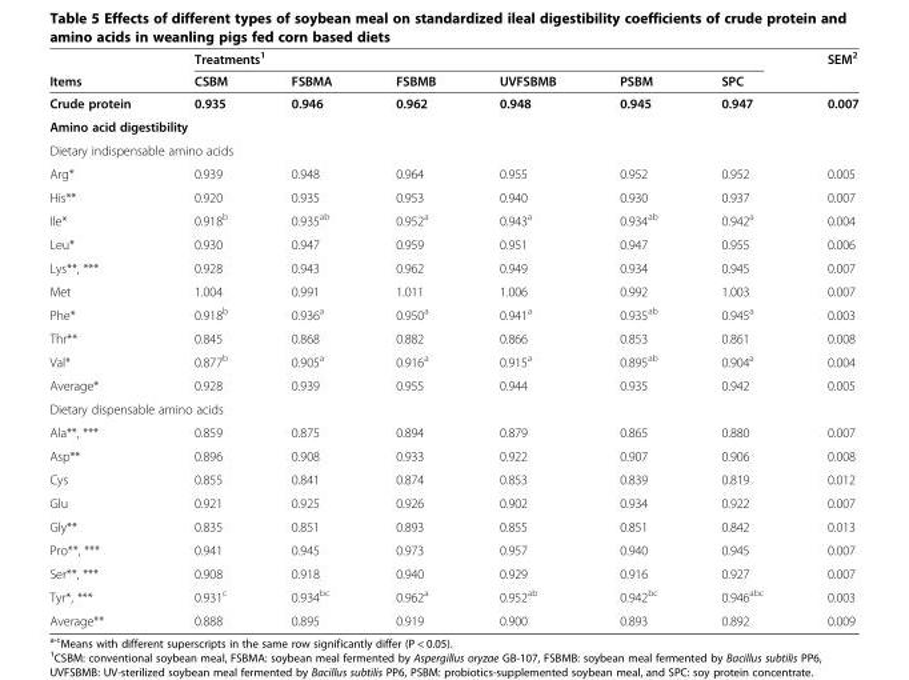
<table><thead><tr><td rowspan="2">Items</td><td colspan="6">Treatments<sup>1</sup></td><td rowspan="2">SEM<sup>2</sup></td></tr><tr><td>CSBM</td><td>FSBMA</td><td>FSBMB</td><td>UVFSBMB</td><td>PSBM</td><td>SPC</td></tr></thead><tbody><tr><td>Crude protein</td><td>0.935</td><td>0.946</td><td>0.962</td><td>0.948</td><td>0.945</td><td>0.947</td><td>0.007</td></tr><tr><td colspan="8">Amino acid digestibility</td></tr><tr><td colspan="8">Dietary indispensable amino acids</td></tr><tr><td>Arg*</td><td>0.939</td><td>0.948</td><td>0.964</td><td>0.955</td><td>0.952</td><td>0.952</td><td>0.005</td></tr><tr><td>His**</td><td>0.920</td><td>0.935</td><td>0.953</td><td>0.940</td><td>0.930</td><td>0.937</td><td>0.007</td></tr><tr><td>Ile*</td><td>0.918<sup>b</sup></td><td>0.935<sup>ab</sup></td><td>0.952<sup>a</sup></td><td>0.943<sup>a</sup></td><td>0.934<sup>ab</sup></td><td>0.942<sup>a</sup></td><td>0.004</td></tr><tr><td>Leu*</td><td>0.930</td><td>0.947</td><td>0.959</td><td>0.951</td><td>0.947</td><td>0.955</td><td>0.006</td></tr><tr><td>Lys**, ***</td><td>0.928</td><td>0.943</td><td>0.962</td><td>0.949</td><td>0.934</td><td>0.945</td><td>0.007</td></tr><tr><td>Met</td><td>1.004</td><td>0.991</td><td>1.011</td><td>1.006</td><td>0.992</td><td>1.003</td><td>0.007</td></tr><tr><td>Phe*</td><td>0.918<sup>b</sup></td><td>0.936<sup>a</sup></td><td>0.950<sup>a</sup></td><td>0.941<sup>a</sup></td><td>0.935<sup>ab</sup></td><td>0.945<sup>a</sup></td><td>0.003</td></tr><tr><td>Thr**</td><td>0.845</td><td>0.868</td><td>0.882</td><td>0.866</td><td>0.853</td><td>0.861</td><td>0.008</td></tr><tr><td>Val*</td><td>0.877<sup>b</sup></td><td>0.905<sup>a</sup></td><td>0.916<sup>a</sup></td><td>0.915<sup>a</sup></td><td>0.895<sup>ab</sup></td><td>0.904<sup>a</sup></td><td>0.004</td></tr><tr><td>Average*</td><td>0.928</td><td>0.939</td><td>0.955</td><td>0.944</td><td>0.935</td><td>0.942</td><td>0.005</td></tr><tr><td colspan="8">Dietary dispensable amino acids</td></tr><tr><td>Ala**, ***</td><td>0.859</td><td>0.875</td><td>0.894</td><td>0.879</td><td>0.865</td><td>0.880</td><td>0.007</td></tr><tr><td>Asp**</td><td>0.896</td><td>0.908</td><td>0.933</td><td>0.922</td><td>0.907</td><td>0.906</td><td>0.008</td></tr><tr><td>Cys</td><td>0.855</td><td>0.841</td><td>0.874</td><td>0.853</td><td>0.839</td><td>0.819</td><td>0.012</td></tr><tr><td>Glu</td><td>0.921</td><td>0.925</td><td>0.926</td><td>0.902</td><td>0.934</td><td>0.922</td><td>0.007</td></tr><tr><td>Gly**</td><td>0.835</td><td>0.851</td><td>0.893</td><td>0.855</td><td>0.851</td><td>0.842</td><td>0.013</td></tr><tr><td>Pro**, ***</td><td>0.941</td><td>0.945</td><td>0.973</td><td>0.957</td><td>0.940</td><td>0.945</td><td>0.007</td></tr><tr><td>Ser**, ***</td><td>0.908</td><td>0.918</td><td>0.940</td><td>0.929</td><td>0.916</td><td>0.927</td><td>0.007</td></tr><tr><td>Tyr*, ***</td><td>0.931<sup>c</sup></td><td>0.934<sup>bc</sup></td><td>0.962<sup>a</sup></td><td>0.952<sup>ab</sup></td><td>0.942<sup>bc</sup></td><td>0.946<sup>abc</sup></td><td>0.003</td></tr><tr><td>Average**</td><td>0.888</td><td>0.895</td><td>0.919</td><td>0.900</td><td>0.893</td><td>0.892</td><td>0.009</td></tr></tbody></table>